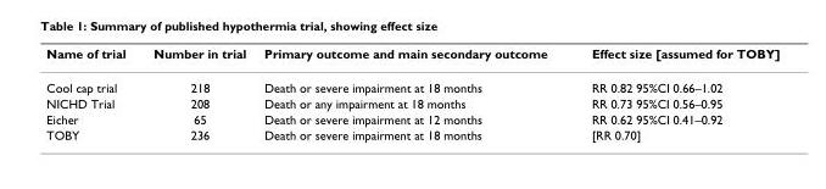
<table><thead><tr><td>Name of trial</td><td>Number in trial</td><td>Primary outcome and main secondary outcome</td><td>Effect size [assumed for TOBY]</td></tr></thead><tbody><tr><td>Cool cap trial</td><td>218</td><td>Death or severe impairment at 18 months</td><td>RR 0.82 95%CI 0.66–1.02</td></tr><tr><td>NICHD Trial</td><td>208</td><td>Death or any impairment at 18 months</td><td>RR 0.73 95%CI 0.56–0.95</td></tr><tr><td>Eicher</td><td>65</td><td>Death or severe impairment at 12 months</td><td>RR 0.62 95%CI 0.41–0.92</td></tr><tr><td>TOBY</td><td>236</td><td>Death or severe impairment at 18 months</td><td>[RR 0.70]</td></tr></tbody></table>